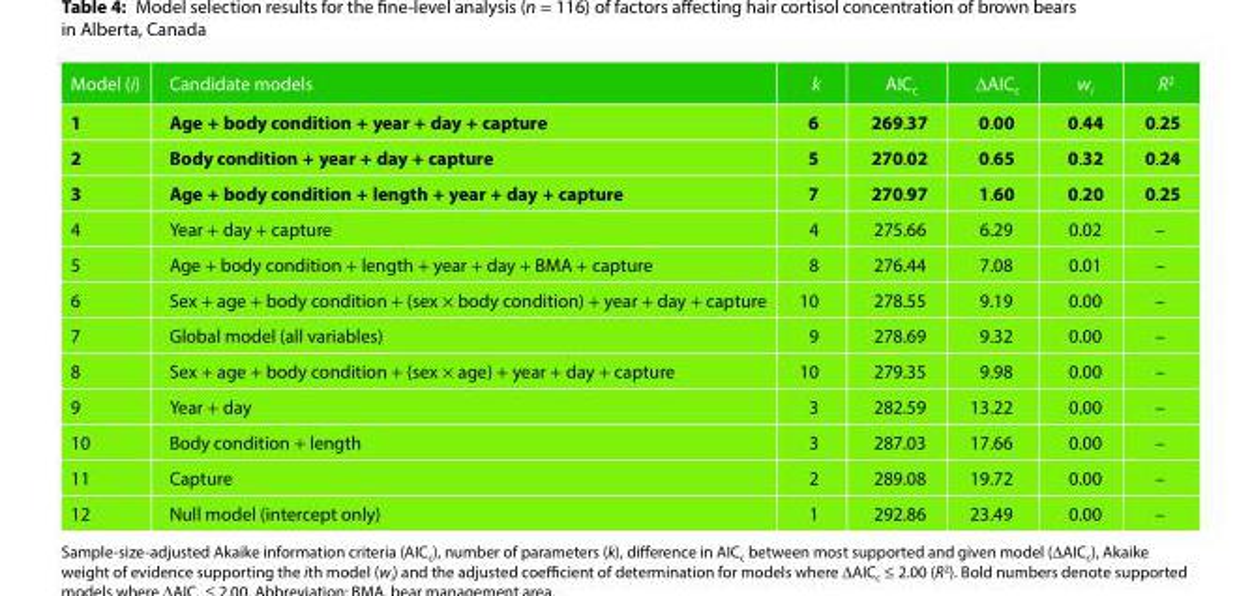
<table><thead><tr><td>Model (i)</td><td>Candidate models</td><td>k</td><td>AIC<sub>c</sub></td><td>ΔAIC<sub>c</sub></td><td>w<sub>i</sub></td><td>R<sup>2</sup></td></tr></thead><tbody><tr><td>1</td><td>Age + body condition + year + day + capture</td><td>6</td><td>269.37</td><td>0.00</td><td>0.44</td><td>0.25</td></tr><tr><td>2</td><td>Body condition + year + day + capture</td><td>5</td><td>270.02</td><td>0.65</td><td>0.32</td><td>0.24</td></tr><tr><td>3</td><td>Age + body condition + length + year + day + capture</td><td>7</td><td>270.97</td><td>1.60</td><td>0.20</td><td>0.25</td></tr><tr><td>4</td><td>Year + day + capture</td><td>4</td><td>275.66</td><td>6.29</td><td>0.02</td><td>–</td></tr><tr><td>5</td><td>Age + body condition + length + year + day + BMA + capture</td><td>8</td><td>276.44</td><td>7.08</td><td>0.01</td><td>–</td></tr><tr><td>6</td><td>Sex + age + body condition + (sex × body condition) + year + day + capture</td><td>10</td><td>278.55</td><td>9.19</td><td>0.00</td><td>–</td></tr><tr><td>7</td><td>Global model (all variables)</td><td>9</td><td>278.69</td><td>9.32</td><td>0.00</td><td>–</td></tr><tr><td>8</td><td>Sex + age + body condition + (sex × age) + year + day + capture</td><td>10</td><td>279.35</td><td>9.98</td><td>0.00</td><td>–</td></tr><tr><td>9</td><td>Year + day</td><td>3</td><td>282.59</td><td>13.22</td><td>0.00</td><td>–</td></tr><tr><td>10</td><td>Body condition + length</td><td>3</td><td>287.03</td><td>17.66</td><td>0.00</td><td>–</td></tr><tr><td>11</td><td>Capture</td><td>2</td><td>289.08</td><td>19.72</td><td>0.00</td><td>–</td></tr><tr><td>12</td><td>Null model (intercept only)</td><td>1</td><td>292.86</td><td>23.49</td><td>0.00</td><td>–</td></tr></tbody></table>